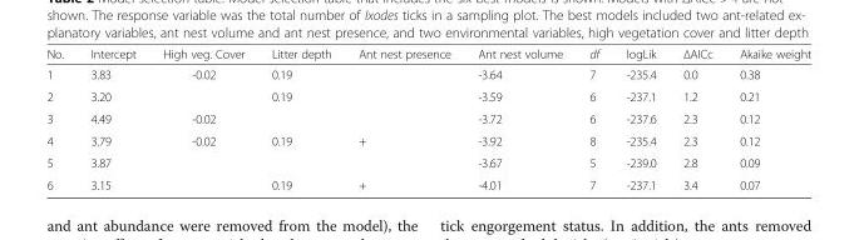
<table><thead><tr><td>No.</td><td>Intercept</td><td>High veg. Cover</td><td>Litter depth</td><td>Ant nest presence</td><td>Ant nest volume</td><td>df</td><td>logLik</td><td>ΔAICc</td><td>Akaike weight</td></tr></thead><tbody><tr><td>1</td><td>3.83</td><td>-0.02</td><td>0.19</td><td></td><td>-3.64</td><td>7</td><td>-235.4</td><td>0.0</td><td>0.38</td></tr><tr><td>2</td><td>3.20</td><td></td><td>0.19</td><td></td><td>-3.59</td><td>6</td><td>-237.1</td><td>1.2</td><td>0.21</td></tr><tr><td>3</td><td>4.49</td><td>-0.02</td><td></td><td></td><td>-3.72</td><td>6</td><td>-237.6</td><td>2.3</td><td>0.12</td></tr><tr><td>4</td><td>3.79</td><td>-0.02</td><td>0.19</td><td>+</td><td>-3.92</td><td>8</td><td>-235.4</td><td>2.3</td><td>0.12</td></tr><tr><td>5</td><td>3.87</td><td></td><td></td><td></td><td>-3.67</td><td>5</td><td>-239.0</td><td>2.8</td><td>0.09</td></tr><tr><td>6</td><td>3.15</td><td></td><td>0.19</td><td>+</td><td>-4.01</td><td>7</td><td>-237.1</td><td>3.4</td><td>0.07</td></tr></tbody></table>